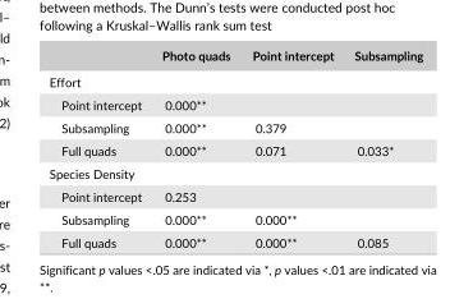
<table><thead><tr><td></td><td>Photo quads</td><td>Point intercept</td><td>Subsampling</td></tr></thead><tbody><tr><td colspan="4">Effort</td></tr><tr><td>Point intercept</td><td>0.000**</td><td></td><td></td></tr><tr><td>Subsampling</td><td>0.000**</td><td>0.379</td><td></td></tr><tr><td>Full quads</td><td>0.000**</td><td>0.071</td><td>0.033*</td></tr><tr><td colspan="4">Species Density</td></tr><tr><td>Point intercept</td><td>0.253</td><td></td><td></td></tr><tr><td>Subsampling</td><td>0.000**</td><td>0.000**</td><td></td></tr><tr><td>Full quads</td><td>0.000**</td><td>0.000**</td><td>0.085</td></tr></tbody></table>